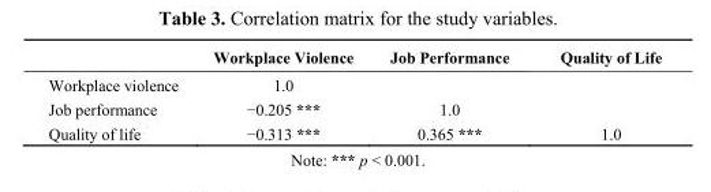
<table><thead><tr><td></td><td>Workplace Violence</td><td>Job Performance</td><td>Quality of Life</td></tr></thead><tbody><tr><td>Workplace violence</td><td>1.0</td><td></td><td></td></tr><tr><td>Job performance</td><td>−0.205 ***</td><td>1.0</td><td></td></tr><tr><td>Quality of life</td><td>−0.313 ***</td><td>0.365 ***</td><td>1.0</td></tr></tbody></table>